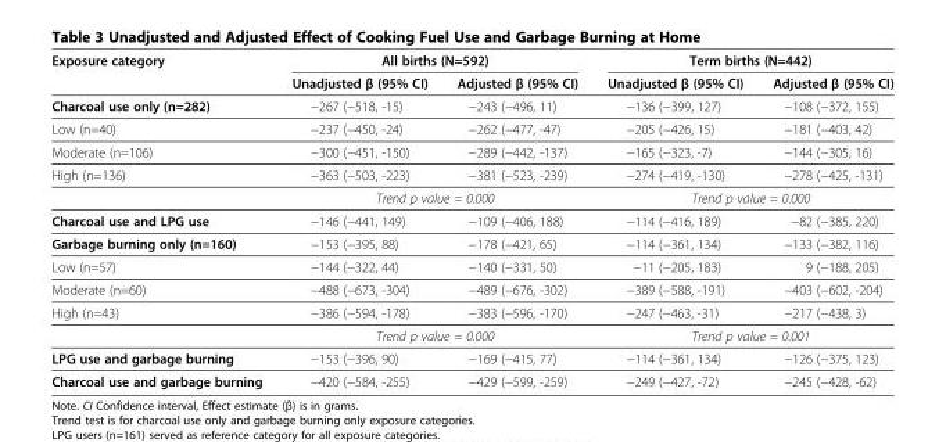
<table><thead><tr><td rowspan="2">Exposure category</td><td colspan="2">All births (N=592)</td><td colspan="2">Term births (N=442)</td></tr><tr><td>Unadjusted β (95% CI)</td><td>Adjusted β (95% CI)</td><td>Unadjusted β (95% CI)</td><td>Adjusted β (95% CI)</td></tr></thead><tbody><tr><td>Charcoal use only (n=282)</td><td>−267 (−518, -15)</td><td>−243 (−496, 11)</td><td>−136 (−399, 127)</td><td>−108 (−372, 155)</td></tr><tr><td>Low (n=40)</td><td>−237 (−450, -24)</td><td>−262 (−477, -47)</td><td>−205 (−426, 15)</td><td>−181 (−403, 42)</td></tr><tr><td>Moderate (n=106)</td><td>−300 (−451, -150)</td><td>−289 (−442, -137)</td><td>−165 (−323, -7)</td><td>−144 (−305, 16)</td></tr><tr><td rowspan="2">High (n=136)</td><td>−363 (−503, -223)</td><td>−381 (−523, -239)</td><td>−274 (−419, -130)</td><td>−278 (−425, -131)</td></tr><tr><td colspan="2">Trend p value = 0.000</td><td colspan="2">Trend p value = 0.000</td></tr><tr><td>Charcoal use and LPG use</td><td>−146 (−441, 149)</td><td>−109 (−406, 188)</td><td>−114 (−416, 189)</td><td>−82 (−385, 220)</td></tr><tr><td>Garbage burning only (n=160)</td><td>−153 (−395, 88)</td><td>−178 (−421, 65)</td><td>−114 (−361, 134)</td><td>−133 (−382, 116)</td></tr><tr><td>Low (n=57)</td><td>−144 (−322, 44)</td><td>−140 (−331, 50)</td><td>−11 (−205, 183)</td><td>9 (−188, 205)</td></tr><tr><td>Moderate (n=60)</td><td>−488 (−673, -304)</td><td>−489 (−676, -302)</td><td>−389 (−588, -191)</td><td>−403 (−602, -204)</td></tr><tr><td rowspan="2">High (n=43)</td><td>−386 (−594, -178)</td><td>−383 (−596, -170)</td><td>−247 (−463, -31)</td><td>−217 (−438, 3)</td></tr><tr><td colspan="2">Trend p value = 0.000</td><td colspan="2">Trend p value = 0.001</td></tr><tr><td>LPG use and garbage burning</td><td>−153 (−396, 90)</td><td>−169 (−415, 77)</td><td>−114 (−361, 134)</td><td>−126 (−375, 123)</td></tr><tr><td>Charcoal use and garbage burning</td><td>−420 (−584, -255)</td><td>−429 (−599, -259)</td><td>−249 (−427, -72)</td><td>−245 (−428, -62)</td></tr></tbody></table>